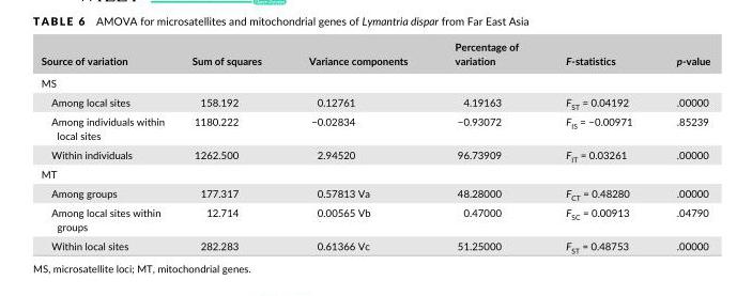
<table><thead><tr><td>Source of variation</td><td>Sum of squares</td><td>Variance components</td><td>Percentage of variation</td><td>F- statistics</td><td>p- value</td></tr></thead><tbody><tr><td colspan="6">MS</td></tr><tr><td>Among local sites</td><td>158.192</td><td>0.12761</td><td>4.19163</td><td>F<sub>ST</sub> = 0.04192</td><td>.00000</td></tr><tr><td>Among individuals within local sites</td><td>1180.222</td><td>−0.02834</td><td>−0.93072</td><td>F<sub>IS</sub> = −0.00971</td><td>.85239</td></tr><tr><td>Within individuals</td><td>1262.500</td><td>2.94520</td><td>96.73909</td><td>F<sub>IT</sub> = 0.03261</td><td>.00000</td></tr><tr><td colspan="6">MT</td></tr><tr><td>Among groups</td><td>177.317</td><td>0.57813 Va</td><td>48.28000</td><td>F<sub>CT</sub> = 0.48280</td><td>.00000</td></tr><tr><td>Among local sites within groups</td><td>12.714</td><td>0.00565 Vb</td><td>0.47000</td><td>F<sub>SC</sub> = 0.00913</td><td>.04790</td></tr><tr><td>Within local sites</td><td>282.283</td><td>0.61366 Vc</td><td>51.25000</td><td>F<sub>ST</sub> = 0.48753</td><td>.00000</td></tr></tbody></table>